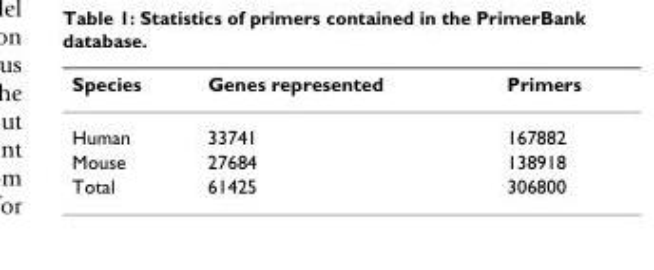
<table><thead><tr><td>Species</td><td>Genes represented</td><td>Primers</td></tr></thead><tbody><tr><td>Human</td><td>33741</td><td>167882</td></tr><tr><td>Mouse</td><td>27684</td><td>138918</td></tr><tr><td>Total</td><td>61425</td><td>306800</td></tr></tbody></table>